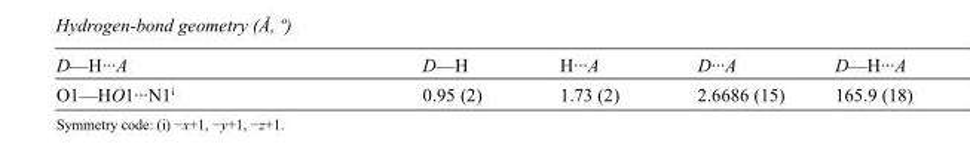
<table><tbody><tr><td>D—H···A</td><td>D—H</td><td>H···A</td><td>D···A</td><td>D—H···A</td></tr><tr><td>O1—HO1···N1<sup>i</sup></td><td>0.95 (2)</td><td>1.73 (2)</td><td>2.6686 (15)</td><td>165.9 (18)</td></tr></tbody></table>